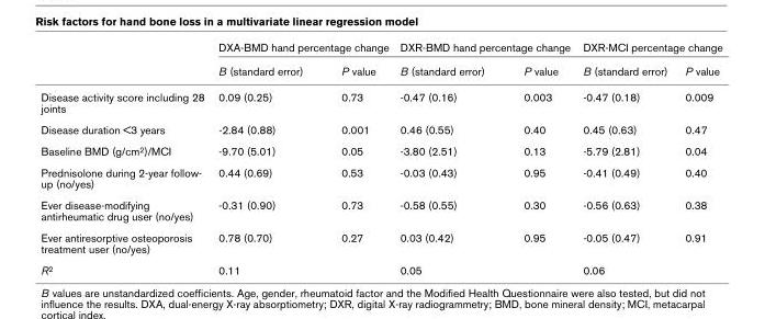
<table><thead><tr><td rowspan="2"></td><td colspan="2">DXA-BMD hand percentage change</td><td colspan="2">DXR-BMD hand percentage change</td><td colspan="2">DXR-MCI percentage change</td></tr><tr><td>B (standard error)</td><td>P value</td><td>B (standard error)</td><td>P value</td><td>B (standard error)</td><td>P value</td></tr></thead><tbody><tr><td>Disease activity score including 28 joints</td><td>0.09 (0.25)</td><td>0.73</td><td>-0.47 (0.16)</td><td>0.003</td><td>-0.47 (0.18)</td><td>0.009</td></tr><tr><td>Disease duration &lt;3 years</td><td>-2.84 (0.88)</td><td>0.001</td><td>0.46 (0.55)</td><td>0.40</td><td>0.45 (0.63)</td><td>0.47</td></tr><tr><td>Baseline BMD (g/cm<sup>2</sup>)/MCI</td><td>-9.70 (5.01)</td><td>0.05</td><td>-3.80 (2.51)</td><td>0.13</td><td>-5.79 (2.81)</td><td>0.04</td></tr><tr><td>Prednisolone during 2-year follow- up (no/yes)</td><td>0.44 (0.69)</td><td>0.53</td><td>-0.03 (0.43)</td><td>0.95</td><td>-0.41 (0.49)</td><td>0.40</td></tr><tr><td>Ever disease-modifying antirheumatic drug user (no/yes)</td><td>-0.31 (0.90)</td><td>0.73</td><td>-0.58 (0.55)</td><td>0.30</td><td>-0.56 (0.63)</td><td>0.38</td></tr><tr><td>Ever antiresorptive osteoporosis treatment user (no/yes)</td><td>0.78 (0.70)</td><td>0.27</td><td>0.03 (0.42)</td><td>0.95</td><td>-0.05 (0.47)</td><td>0.91</td></tr><tr><td>R<sup>2</sup></td><td>0.11</td><td></td><td>0.05</td><td></td><td>0.06</td><td></td></tr></tbody></table>